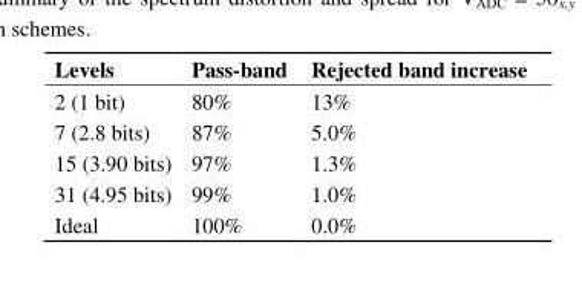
<table><thead><tr><td>Levels</td><td>Pass-band</td><td>Rejected band increase</td></tr></thead><tbody><tr><td>2 (1 bit)</td><td>80%</td><td>13%</td></tr><tr><td>7 (2.8 bits)</td><td>87%</td><td>5.0%</td></tr><tr><td>15 (3.90 bits)</td><td>97%</td><td>1.3%</td></tr><tr><td>31 (4.95 bits)</td><td>99%</td><td>1.0%</td></tr><tr><td>Ideal</td><td>100%</td><td>0.0%</td></tr></tbody></table>